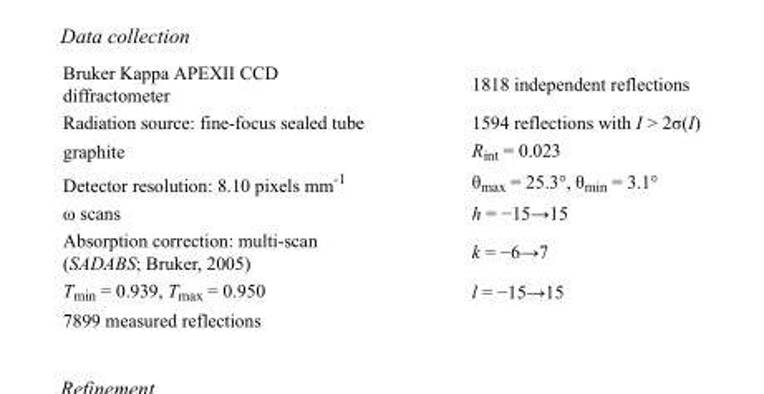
<table><tbody><tr><td>Bruker Kappa APEXII CCD diffractometer</td><td>1818 independent reflections</td></tr><tr><td>Radiation source: fine-focus sealed tube</td><td>1594 reflections with I &gt; 2σ(I)</td></tr><tr><td>graphite</td><td>R<sub>int</sub> = 0.023</td></tr><tr><td>Detector resolution: 8.10 pixels mm<sup>-1</sup></td><td>θ<sub>max</sub> = 25.3°, θ<sub>min</sub> = 3.1°</td></tr><tr><td>ω scans</td><td>h = −15→15</td></tr><tr><td>Absorption correction: multi-scan (SADABS; Bruker, 2005)</td><td>k = −6→7</td></tr><tr><td>T<sub>min</sub> = 0.939, T<sub>max</sub> = 0.950</td><td>l = −15→15</td></tr><tr><td>7899 measured reflections</td><td></td></tr></tbody></table>